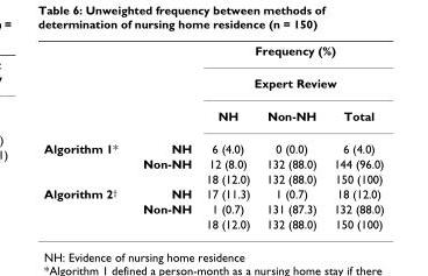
<table><thead><tr><td rowspan="3"></td><td rowspan="3"></td><td rowspan="2" colspan="3">Frequency (%) Expert Review</td></tr><tr></tr><tr><td>NH</td><td>Non-NH</td><td>Total</td></tr></thead><tbody><tr><td rowspan="3">Algorithm 1*</td><td>NH</td><td>6 (4.0)</td><td>0 (0.0)</td><td>6 (4.0)</td></tr><tr><td>Non-NH</td><td>12 (8.0)</td><td>132 (88.0)</td><td>144 (96.0)</td></tr><tr><td></td><td>18 (12.0)</td><td>132 (88.0)</td><td>150 (100)</td></tr><tr><td rowspan="3">Algorithm 2<sup>†</sup></td><td>NH</td><td>17 (11.3)</td><td>1 (0.7)</td><td>18 (12.0)</td></tr><tr><td>Non-NH</td><td>1 (0.7)</td><td>131 (87.3)</td><td>132 (88.0)</td></tr><tr><td></td><td>18 (12.0)</td><td>132 (88.0)</td><td>150 (100)</td></tr></tbody></table>